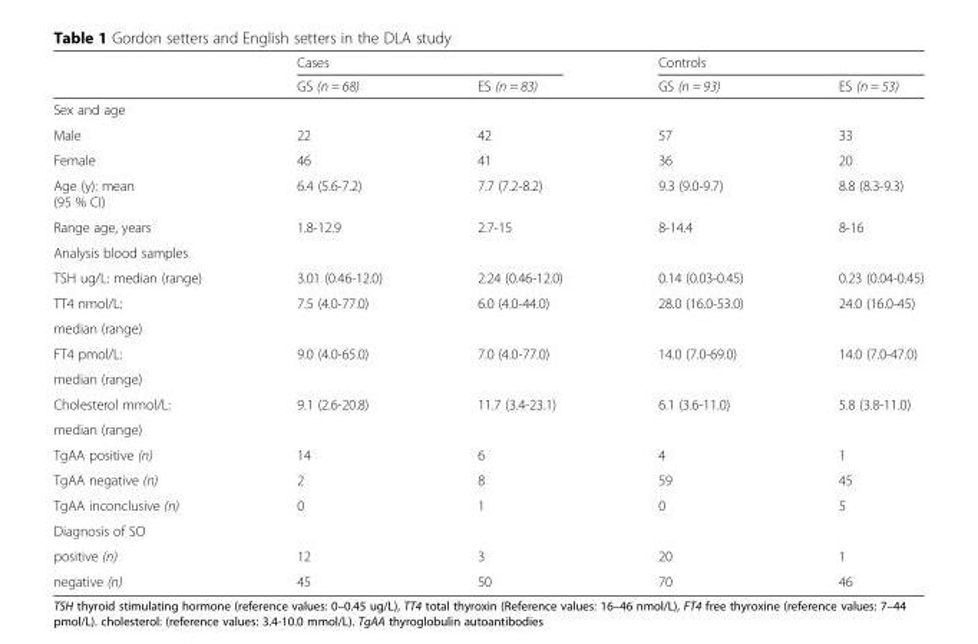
<table><thead><tr><td rowspan="2"></td><td colspan="2">Cases</td><td colspan="2">Controls</td></tr><tr><td>GS (n = 68)</td><td>ES (n = 83)</td><td>GS (n = 93)</td><td>ES (n = 53)</td></tr></thead><tbody><tr><td colspan="5">Sex and age</td></tr><tr><td>Male</td><td>22</td><td>42</td><td>57</td><td>33</td></tr><tr><td>Female</td><td>46</td><td>41</td><td>36</td><td>20</td></tr><tr><td>Age (y): mean (95 % CI)</td><td>6.4 (5.6-7.2)</td><td>7.7 (7.2-8.2)</td><td>9.3 (9.0-9.7)</td><td>8.8 (8.3-9.3)</td></tr><tr><td>Range age, years</td><td>1.8-12.9</td><td>2.7-15</td><td>8-14.4</td><td>8-16</td></tr><tr><td colspan="5">Analysis blood samples</td></tr><tr><td>TSH ug/L: median (range)</td><td>3.01 (0.46-12.0)</td><td>2.24 (0.46-12.0)</td><td>0.14 (0.03-0.45)</td><td>0.23 (0.04-0.45)</td></tr><tr><td>TT4 nmol/L:</td><td rowspan="2">7.5 (4.0-77.0)</td><td rowspan="2">6.0 (4.0-44.0)</td><td rowspan="2">28.0 (16.0-53.0)</td><td rowspan="2">24.0 (16.0-45)</td></tr><tr><td>median (range)</td></tr><tr><td>FT4 pmol/L:</td><td rowspan="2">9.0 (4.0-65.0)</td><td rowspan="2">7.0 (4.0-77.0)</td><td rowspan="2">14.0 (7.0-69.0)</td><td rowspan="2">14.0 (7.0-47.0)</td></tr><tr><td>median (range)</td></tr><tr><td>Cholesterol mmol/L:</td><td rowspan="2">9.1 (2.6-20.8)</td><td rowspan="2">11.7 (3.4-23.1)</td><td rowspan="2">6.1 (3.6-11.0)</td><td rowspan="2">5.8 (3.8-11.0)</td></tr><tr><td>median (range)</td></tr><tr><td>TgAA positive (n)</td><td>14</td><td>6</td><td>4</td><td>1</td></tr><tr><td>TgAA negative (n)</td><td>2</td><td>8</td><td>59</td><td>45</td></tr><tr><td>TgAA inconclusive (n)</td><td>0</td><td>1</td><td>0</td><td>5</td></tr><tr><td colspan="5">Diagnosis of SO</td></tr><tr><td>positive (n)</td><td>12</td><td>3</td><td>20</td><td>1</td></tr><tr><td>negative (n)</td><td>45</td><td>50</td><td>70</td><td>46</td></tr></tbody></table>